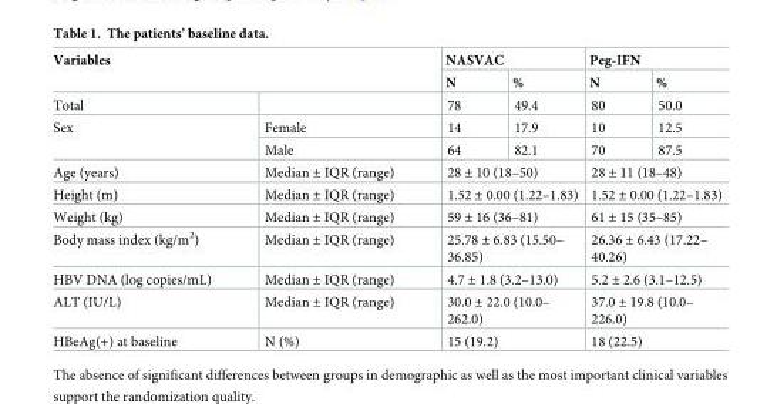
<table><thead><tr><td rowspan="2" colspan="2">Variables</td><td colspan="2">NASVAC</td><td colspan="2">Peg-IFN</td></tr><tr><td rowspan="2">N 78</td><td rowspan="2">% 49.4</td><td rowspan="2">N 80</td><td rowspan="2">% 50.0</td></tr><tr><td>Total</td><td></td></tr></thead><tbody><tr><td rowspan="2">Sex</td><td>Female</td><td>14</td><td>17.9</td><td>10</td><td>12.5</td></tr><tr><td>Male</td><td>64</td><td>82.1</td><td>70</td><td>87.5</td></tr><tr><td>Age (years)</td><td>Median ± IQR (range)</td><td colspan="2">28 ± 10 (18–50)</td><td colspan="2">28 ± 11 (18–48)</td></tr><tr><td>Height (m)</td><td>Median ± IQR (range)</td><td colspan="2">1.52 ± 0.00 (1.22–1.83)</td><td colspan="2">1.52 ± 0.00 (1.22–1.83)</td></tr><tr><td>Weight (kg)</td><td>Median ± IQR (range)</td><td colspan="2">59 ± 16 (36–81)</td><td colspan="2">61 ± 15 (35–85)</td></tr><tr><td>Body mass index (kg/m<sup>2</sup>)</td><td>Median ± IQR (range)</td><td colspan="2">25.78 ± 6.83 (15.50– 36.85)</td><td colspan="2">26.36 ± 6.43 (17.22– 40.26)</td></tr><tr><td>HBV DNA (log copies/mL)</td><td>Median ± IQR (range)</td><td colspan="2">4.7 ± 1.8 (3.2–13.0)</td><td colspan="2">5.2 ± 2.6 (3.1–12.5)</td></tr><tr><td>ALT (IU/L)</td><td>Median ± IQR (range)</td><td colspan="2">30.0 ± 22.0 (10.0– 262.0)</td><td colspan="2">37.0 ± 19.8 (10.0– 226.0)</td></tr><tr><td>HBeAg(+) at baseline</td><td>N (%)</td><td colspan="2">15 (19.2)</td><td colspan="2">18 (22.5)</td></tr></tbody></table>